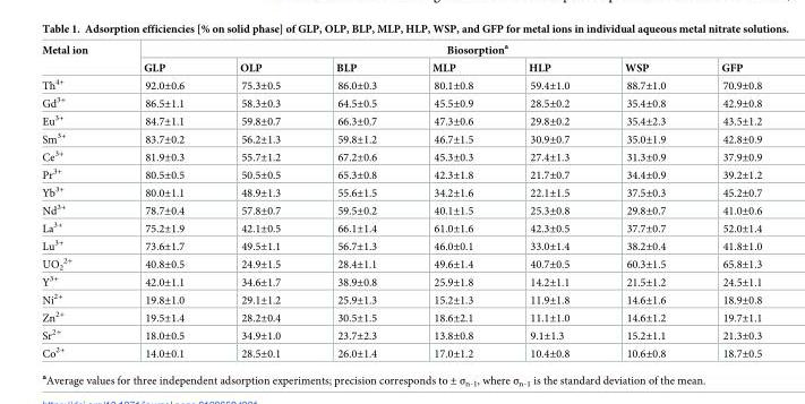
<table><thead><tr><td rowspan="2">Metal ion</td><td colspan="7">Biosorption<sup>a</sup></td></tr><tr><td>GLP</td><td>OLP</td><td>BLP</td><td>MLP</td><td>HLP</td><td>WSP</td><td>GFP</td></tr></thead><tbody><tr><td>Th<sup>4+</sup></td><td>92.0±0.6</td><td>75.3±0.5</td><td>86.0±0.3</td><td>80.1±0.8</td><td>59.4±1.0</td><td>88.7±1.0</td><td>70.9±0.8</td></tr><tr><td>Gd<sup>3+</sup></td><td>86.5±1.1</td><td>58.3±0.3</td><td>64.5±0.5</td><td>45.5±0.9</td><td>28.5±0.2</td><td>35.4±0.8</td><td>42.9±0.8</td></tr><tr><td>Eu<sup>3+</sup></td><td>84.7±1.1</td><td>59.8±0.7</td><td>66.3±0.7</td><td>47.3±0.6</td><td>29.8±0.2</td><td>35.4±2.3</td><td>43.5±1.2</td></tr><tr><td>Sm<sup>3+</sup></td><td>83.7±0.2</td><td>56.2±1.3</td><td>59.8±1.2</td><td>46.7±1.5</td><td>30.9±0.7</td><td>35.0±1.9</td><td>42.8±0.9</td></tr><tr><td>Ce<sup>3+</sup></td><td>81.9±0.3</td><td>55.7±1.2</td><td>67.2±0.6</td><td>45.3±0.3</td><td>27.4±1.3</td><td>31.3±0.9</td><td>37.9±0.9</td></tr><tr><td>Pr<sup>3+</sup></td><td>80.5±0.5</td><td>50.5±0.5</td><td>65.3±0.8</td><td>42.3±1.8</td><td>21.7±0.7</td><td>34.4±0.9</td><td>39.2±1.2</td></tr><tr><td>Yb<sup>3+</sup></td><td>80.0±1.1</td><td>48.9±1.3</td><td>55.6±1.5</td><td>34.2±1.6</td><td>22.1±1.5</td><td>37.5±0.3</td><td>45.2±0.7</td></tr><tr><td>Nd<sup>3+</sup></td><td>78.7±0.4</td><td>57.8±0.7</td><td>59.5±0.2</td><td>40.1±1.5</td><td>25.3±0.8</td><td>29.8±0.7</td><td>41.0±0.6</td></tr><tr><td>La<sup>3+</sup></td><td>75.2±1.9</td><td>42.1±0.5</td><td>66.1±1.4</td><td>61.0±1.6</td><td>42.3±0.5</td><td>37.7±0.7</td><td>52.0±1.4</td></tr><tr><td>Lu<sup>3+</sup></td><td>73.6±1.7</td><td>49.5±1.1</td><td>56.7±1.3</td><td>46.0±0.1</td><td>33.0±1.4</td><td>38.2±0.4</td><td>41.8±1.0</td></tr><tr><td>UO<sub>2</sub> <sup>2+</sup></td><td>40.8±0.5</td><td>24.9±1.5</td><td>28.4±1.1</td><td>49.6±1.4</td><td>40.7±0.5</td><td>60.3±1.5</td><td>65.8±1.3</td></tr><tr><td>Y<sup>3+</sup></td><td>42.0±1.1</td><td>34.6±1.7</td><td>38.9±0.8</td><td>25.9±1.8</td><td>14.2±1.1</td><td>21.5±1.2</td><td>24.5±1.1</td></tr><tr><td>Ni<sup>2+</sup></td><td>19.8±1.0</td><td>29.1±1.2</td><td>25.9±1.3</td><td>15.2±1.3</td><td>11.9±1.8</td><td>14.6±1.6</td><td>18.9±0.8</td></tr><tr><td>Zn<sup>2+</sup></td><td>19.5±1.4</td><td>28.2±0.4</td><td>30.5±1.5</td><td>18.6±2.1</td><td>11.1±1.0</td><td>14.6±1.2</td><td>19.7±1.1</td></tr><tr><td>Sr<sup>2+</sup></td><td>18.0±0.5</td><td>34.9±1.0</td><td>23.7±2.3</td><td>13.8±0.8</td><td>9.1±1.3</td><td>15.2±1.1</td><td>21.3±0.3</td></tr><tr><td>Co<sup>2+</sup></td><td>14.0±0.1</td><td>28.5±0.1</td><td>26.0±1.4</td><td>17.0±1.2</td><td>10.4±0.8</td><td>10.6±0.8</td><td>18.7±0.5</td></tr></tbody></table>